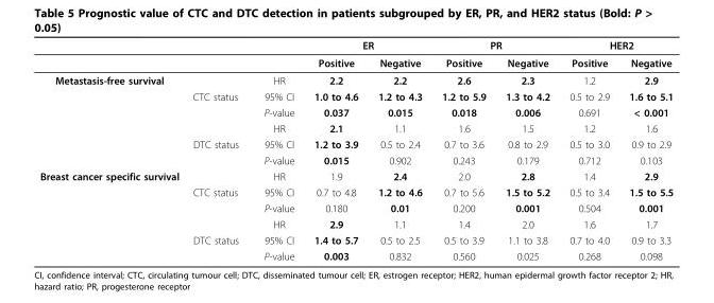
<table><thead><tr><td rowspan="2"></td><td rowspan="2"></td><td rowspan="2"></td><td colspan="2">ER</td><td colspan="2">PR</td><td colspan="2">HER2</td></tr><tr><td>Positive</td><td>Negative</td><td>Positive</td><td>Negative</td><td>Positive</td><td>Negative</td></tr></thead><tbody><tr><td rowspan="6">Metastasis-free survival</td><td></td><td>HR</td><td>2.2</td><td>2.2</td><td>2.6</td><td>2.3</td><td>1.2</td><td>2.9</td></tr><tr><td>CTC status</td><td>95% CI</td><td>1.0 to 4.6</td><td>1.2 to 4.3</td><td>1.2 to 5.9</td><td>1.3 to 4.2</td><td>0.5 to 2.9</td><td>1.6 to 5.1</td></tr><tr><td></td><td>P-value</td><td>0.037</td><td>0.015</td><td>0.018</td><td>0.006</td><td>0.691</td><td>&lt; 0.001</td></tr><tr><td></td><td>HR</td><td>2.1</td><td>1.1</td><td>1.6</td><td>1.5</td><td>1.2</td><td>1.6</td></tr><tr><td>DTC status</td><td>95% CI</td><td>1.2 to 3.9</td><td>0.5 to 2.4</td><td>0.7 to 3.6</td><td>0.8 to 2.9</td><td>0.5 to 3.0</td><td>0.9 to 2.9</td></tr><tr><td></td><td>P-value</td><td>0.015</td><td>0.902</td><td>0.243</td><td>0.179</td><td>0.712</td><td>0.103</td></tr><tr><td rowspan="6">Breast cancer specific survival</td><td></td><td>HR</td><td>1.9</td><td>2.4</td><td>2.0</td><td>2.8</td><td>1.4</td><td>2.9</td></tr><tr><td>CTC status</td><td>95% CI</td><td>0.7 to 4.8</td><td>1.2 to 4.6</td><td>0.7 to 5.6</td><td>1.5 to 5.2</td><td>0.5 to 3.4</td><td>1.5 to 5.5</td></tr><tr><td></td><td>P-value</td><td>0.180</td><td>0.01</td><td>0.200</td><td>0.001</td><td>0.504</td><td>0.001</td></tr><tr><td></td><td>HR</td><td>2.9</td><td>1.1</td><td>1.4</td><td>2.0</td><td>1.6</td><td>1.7</td></tr><tr><td>DTC status</td><td>95% CI</td><td>1.4 to 5.7</td><td>0.5 to 2.5</td><td>0.5 to 3.9</td><td>1.1 to 3.8</td><td>0.7 to 4.0</td><td>0.9 to 3.3</td></tr><tr><td></td><td>P-value</td><td>0.003</td><td>0.832</td><td>0.560</td><td>0.025</td><td>0.268</td><td>0.098</td></tr></tbody></table>